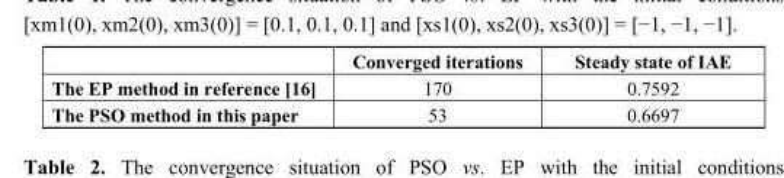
<table><thead><tr><td></td><td>Converged iterations</td><td>Steady state of IAE</td></tr></thead><tbody><tr><td>The EP method in reference [16]</td><td>170</td><td>0.7592</td></tr><tr><td>The PSO method in this paper</td><td>53</td><td>0.6697</td></tr></tbody></table>